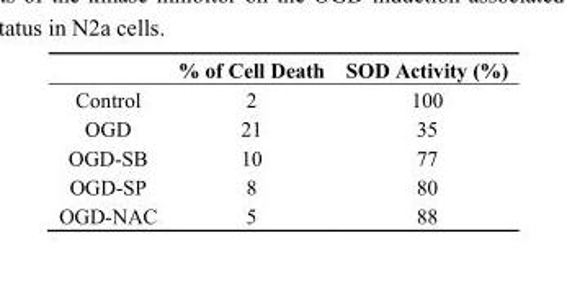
<table><thead><tr><td></td><td>% of Cell Death</td><td>SOD Activity (%)</td></tr></thead><tbody><tr><td>Control</td><td>2</td><td>100</td></tr><tr><td>OGD</td><td>21</td><td>35</td></tr><tr><td>OGD-SB</td><td>10</td><td>77</td></tr><tr><td>OGD-SP</td><td>8</td><td>80</td></tr><tr><td>OGD-NAC</td><td>5</td><td>88</td></tr></tbody></table>